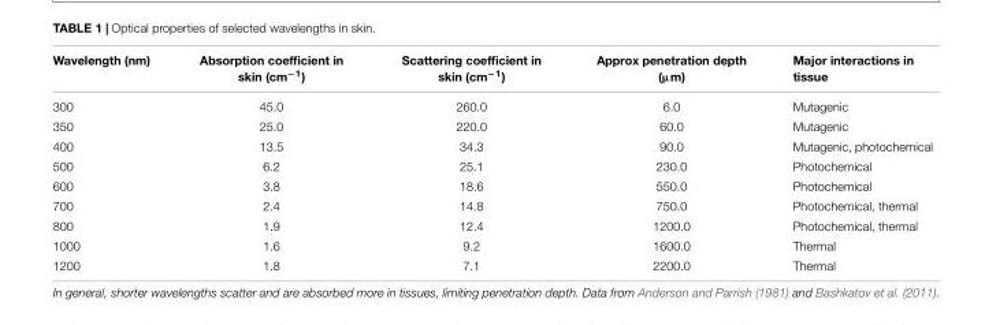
<table><thead><tr><td>Wavelength (nm)</td><td>Absorption coefficient in skin (cm<sup>−1</sup>)</td><td>Scattering coefficient in skin (cm<sup>−1</sup>)</td><td>Approx penetration depth (µm)</td><td>Major interactions in tissue</td></tr></thead><tbody><tr><td>300</td><td>45.0</td><td>260.0</td><td>6.0</td><td>Mutagenic</td></tr><tr><td>350</td><td>25.0</td><td>220.0</td><td>60.0</td><td>Mutagenic</td></tr><tr><td>400</td><td>13.5</td><td>34.3</td><td>90.0</td><td>Mutagenic, photochemical</td></tr><tr><td>500</td><td>6.2</td><td>25.1</td><td>230.0</td><td>Photochemical</td></tr><tr><td>600</td><td>3.8</td><td>18.6</td><td>550.0</td><td>Photochemical</td></tr><tr><td>700</td><td>2.4</td><td>14.8</td><td>750.0</td><td>Photochemical, thermal</td></tr><tr><td>800</td><td>1.9</td><td>12.4</td><td>1200.0</td><td>Photochemical, thermal</td></tr><tr><td>1000</td><td>1.6</td><td>9.2</td><td>1600.0</td><td>Thermal</td></tr><tr><td>1200</td><td>1.8</td><td>7.1</td><td>2200.0</td><td>Thermal</td></tr></tbody></table>